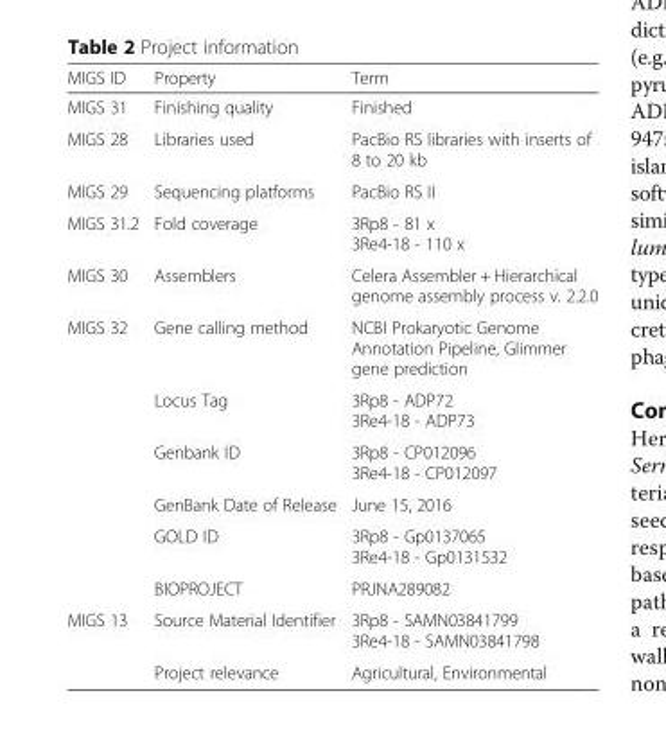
<table><thead><tr><td>MIGS ID</td><td>Property</td><td>Term</td></tr></thead><tbody><tr><td>MIGS 31</td><td>Finishing quality</td><td>Finished</td></tr><tr><td>MIGS 28</td><td>Libraries used</td><td>PacBio RS libraries with inserts of 8 to 20 kb</td></tr><tr><td>MIGS 29</td><td>Sequencing platforms</td><td>PacBio RS II</td></tr><tr><td>MIGS 31.2</td><td>Fold coverage</td><td>3Rp8 - 81 x 3Re4-18 - 110 x</td></tr><tr><td>MIGS 30</td><td>Assemblers</td><td>Celera Assembler + Hierarchical genome assembly process v. 2.2.0</td></tr><tr><td rowspan="6">MIGS 32</td><td>Gene calling method</td><td>NCBI Prokaryotic Genome Annotation Pipeline, Glimmer gene prediction</td></tr><tr><td>Locus Tag</td><td>3Rp8 - ADP72 3Re4-18 - ADP73</td></tr><tr><td>Genbank ID</td><td>3Rp8 - CP012096 3Re4-18 - CP012097</td></tr><tr><td>GenBank Date of Release</td><td>June 15, 2016</td></tr><tr><td>GOLD ID</td><td>3Rp8 - Gp0137065 3Re4-18 - Gp0131532</td></tr><tr><td>BIOPROJECT</td><td>PRJNA289082</td></tr><tr><td rowspan="2">MIGS 13</td><td>Source Material Identifier</td><td>3Rp8 - SAMN03841799 3Re4-18 - SAMN03841798</td></tr><tr><td>Project relevance</td><td>Agricultural, Environmental</td></tr></tbody></table>